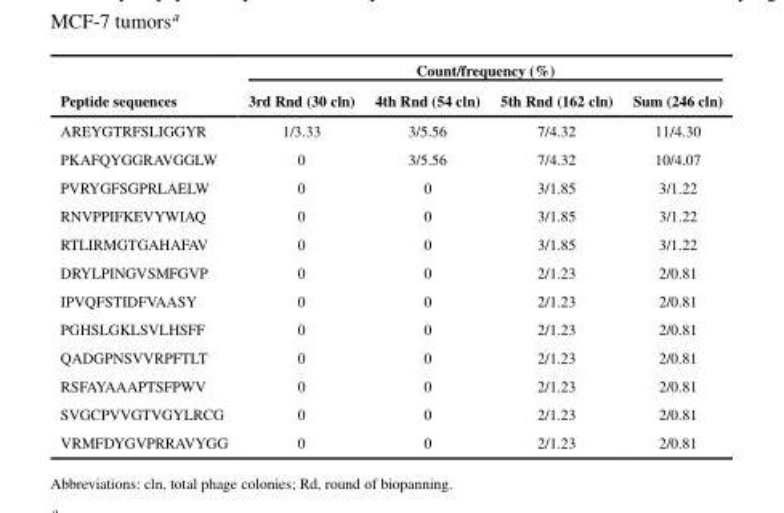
<table><thead><tr><td rowspan="2">Peptide sequences</td><td colspan="4">Count/frequency (%)</td></tr><tr><td>3rd Rnd (30 cln)</td><td>4th Rnd (54 cln)</td><td>5th Rnd (162 cln)</td><td>Sum (246 cln)</td></tr></thead><tbody><tr><td>AREYGTRFSLIGGYR</td><td>1/3.33</td><td>3/5.56</td><td>7/4.32</td><td>11/4.30</td></tr><tr><td>PKAFQYGGRAVGGLW</td><td>0</td><td>3/5.56</td><td>7/4.32</td><td>10/4.07</td></tr><tr><td>PVRYGFSGPRLAELW</td><td>0</td><td>0</td><td>3/1.85</td><td>3/1.22</td></tr><tr><td>RNVPPIFKEVYWIAQ</td><td>0</td><td>0</td><td>3/1.85</td><td>3/1.22</td></tr><tr><td>RTLIRMGTGAHAFAV</td><td>0</td><td>0</td><td>3/1.85</td><td>3/1.22</td></tr><tr><td>DRYLPINGVSMFGVP</td><td>0</td><td>0</td><td>2/1.23</td><td>2/0.81</td></tr><tr><td>IPVQFSTIDFVAASY</td><td>0</td><td>0</td><td>2/1.23</td><td>2/0.81</td></tr><tr><td>PGHSLGKLSVLHSFF</td><td>0</td><td>0</td><td>2/1.23</td><td>2/0.81</td></tr><tr><td>QADGPNSVVRPFTLT</td><td>0</td><td>0</td><td>2/1.23</td><td>2/0.81</td></tr><tr><td>RSFAYAAAPTSFPWV</td><td>0</td><td>0</td><td>2/1.23</td><td>2/0.81</td></tr><tr><td>SVGCPVVGTVGYLRCG</td><td>0</td><td>0</td><td>2/1.23</td><td>2/0.81</td></tr><tr><td>VRMFDYGVPRRAVYGG</td><td>0</td><td>0</td><td>2/1.23</td><td>2/0.81</td></tr></tbody></table>